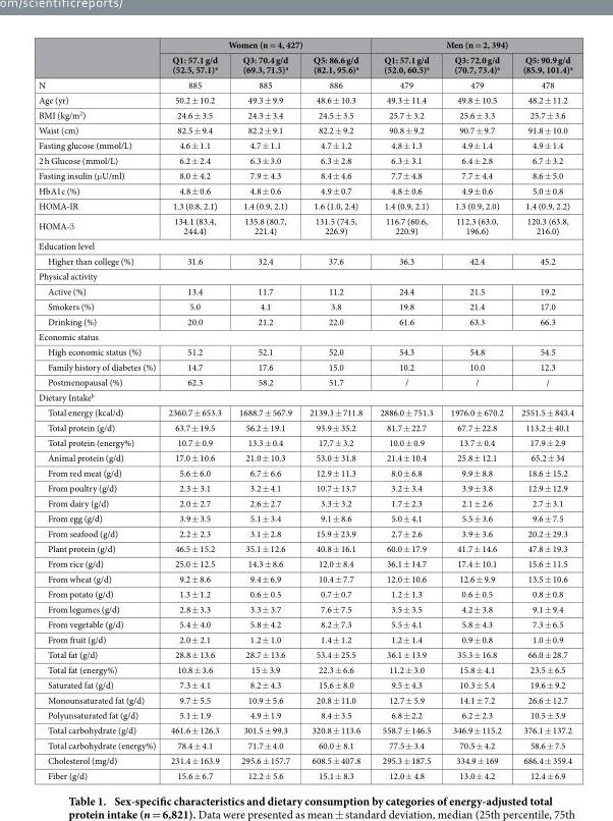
<table><thead><tr><td rowspan="2"></td><td colspan="3">Women (n = 4, 427)</td><td colspan="3">Men (n = 2, 394)</td></tr><tr><td>Q1: 57.1 g/d (52.5, 57.1)<sup>a</sup></td><td>Q3: 70.4 g/d (69.3, 71.5)<sup>a</sup></td><td>Q5: 86.6 g/d (82.1, 95.6)<sup>a</sup></td><td>Q1: 57.1 g/d (52.0, 60.5)<sup>a</sup></td><td>Q3: 72.0 g/d (70.7, 73.4)<sup>a</sup></td><td>Q5: 90.9 g/d (85.9, 101.4)<sup>a</sup></td></tr></thead><tbody><tr><td>N</td><td>885</td><td>885</td><td>886</td><td>479</td><td>479</td><td>478</td></tr><tr><td>Age (yr)</td><td>50.2 ± 10.2</td><td>49.3 ± 9.9</td><td>48.6 ± 10.3</td><td>49.3 ± 11.4</td><td>49.8 ± 10.5</td><td>48.2 ± 11.2</td></tr><tr><td>BMI (kg/m<sup>2</sup>)</td><td>24.6 ± 3.5</td><td>24.3 ± 3.4</td><td>24.5 ± 3.5</td><td>25.7 ± 3.2</td><td>25.6 ± 3.3</td><td>25.7 ± 3.6</td></tr><tr><td>Waist (cm)</td><td>82.5 ± 9.4</td><td>82.2 ± 9.1</td><td>82.2 ± 9.2</td><td>90.8 ± 9.2</td><td>90.7 ± 9.7</td><td>91.8 ± 10.0</td></tr><tr><td>Fasting glucose (mmol/L)</td><td>4.6 ± 1.1</td><td>4.7 ± 1.1</td><td>4.7 ± 1.2</td><td>4.8 ± 1.3</td><td>4.9 ± 1.4</td><td>4.9 ± 1.4</td></tr><tr><td>2 h Glucose (mmol/L)</td><td>6.2 ± 2.4</td><td>6.3 ± 3.0</td><td>6.3 ± 2.8</td><td>6.3 ± 3.1</td><td>6.4 ± 2.8</td><td>6.7 ± 3.2</td></tr><tr><td>Fasting insulin (μ U/ml)</td><td>8.0 ± 4.2</td><td>7.9 ± 4.3</td><td>8.4 ± 4.6</td><td>7.7 ± 4.8</td><td>7.7 ± 4.4</td><td>8.6 ± 5.0</td></tr><tr><td>HbA1c (%)</td><td>4.8 ± 0.6</td><td>4.8 ± 0.6</td><td>4.9 ± 0.7</td><td>4.8 ± 0.6</td><td>4.9 ± 0.6</td><td>5.0 ± 0.8</td></tr><tr><td>HOMA-IR</td><td>1.3 (0.8, 2.1)</td><td>1.4 (0.9, 2.1)</td><td>1.6 (1.0, 2.4)</td><td>1.4 (0.9, 2.1)</td><td>1.3 (0.9, 2.0)</td><td>1.4 (0.9, 2.2)</td></tr><tr><td>HOMA-β</td><td>134.1 (83.4, 244.4)</td><td>135.8 (80.7, 221.4)</td><td>131.5 (74.5, 226.9)</td><td>116.7 (60.6, 220.9)</td><td>112.3 (63.0, 196.6)</td><td>120.3 (63.8, 216.0)</td></tr><tr><td colspan="7">Education level</td></tr><tr><td>Higher than college (%)</td><td>31.6</td><td>32.4</td><td>37.6</td><td>36.3</td><td>42.4</td><td>45.2</td></tr><tr><td colspan="7">Physical activity</td></tr><tr><td>Active (%)</td><td>13.4</td><td>11.7</td><td>11.2</td><td>24.4</td><td>21.5</td><td>19.2</td></tr><tr><td>Smokers (%)</td><td>5.0</td><td>4.1</td><td>3.8</td><td>19.8</td><td>21.4</td><td>17.0</td></tr><tr><td>Drinking (%)</td><td>20.0</td><td>21.2</td><td>22.0</td><td>61.6</td><td>63.3</td><td>66.3</td></tr><tr><td colspan="7">Economic status</td></tr><tr><td>High economic status (%)</td><td>51.2</td><td>52.1</td><td>52.0</td><td>54.3</td><td>54.8</td><td>54.5</td></tr><tr><td>Family history of diabetes (%)</td><td>14.7</td><td>17.6</td><td>15.0</td><td>10.2</td><td>10.0</td><td>12.3</td></tr><tr><td>Postmenopausal (%)</td><td>62.3</td><td>58.2</td><td>51.7</td><td>/</td><td>/</td><td>/</td></tr><tr><td colspan="7">Dietary Intake<sup>b</sup></td></tr><tr><td>Total energy (kcal/d)</td><td>2360.7 ± 653.3</td><td>1688.7 ± 567.9</td><td>2139.3 ± 711.8</td><td>2886.0 ± 751.3</td><td>1976.0 ± 670.2</td><td>2551.5 ± 843.4</td></tr><tr><td>Total protein (g/d)</td><td>63.7 ± 19.5</td><td>56.2 ± 19.1</td><td>93.9 ± 35.2</td><td>81.7 ± 22.7</td><td>67.7 ± 22.8</td><td>113.2 ± 40.1</td></tr><tr><td>Total protein (energy%)</td><td>10.7 ± 0.9</td><td>13.3 ± 0.4</td><td>17.7 ± 3.2</td><td>10.0 ± 0.9</td><td>13.7 ± 0.4</td><td>17.9 ± 2.9</td></tr><tr><td>Animal protein (g/d)</td><td>17.0 ± 10.6</td><td>21.0 ± 10.3</td><td>53.0 ± 31.8</td><td>21.4 ± 10.4</td><td>25.8 ± 12.1</td><td>65.2 ± 34</td></tr><tr><td>From red meat (g/d)</td><td>5.6 ± 6.0</td><td>6.7 ± 6.6</td><td>12.9 ± 11.3</td><td>8.0 ± 6.8</td><td>9.9 ± 8.8</td><td>18.6 ± 15.2</td></tr><tr><td>From poultry (g/d)</td><td>2.3 ± 3.1</td><td>3.2 ± 4.1</td><td>10.7 ± 13.7</td><td>3.2 ± 3.4</td><td>3.9 ± 3.8</td><td>12.9 ± 12.9</td></tr><tr><td>From dairy (g/d)</td><td>2.0 ± 2.7</td><td>2.6 ± 2.7</td><td>3.3 ± 3.2</td><td>1.7 ± 2.3</td><td>2.1 ± 2.6</td><td>2.7 ± 3.1</td></tr><tr><td>From egg (g/d)</td><td>3.9 ± 3.5</td><td>5.1 ± 3.4</td><td>9.1 ± 8.6</td><td>5.0 ± 4.1</td><td>5.5 ± 3.6</td><td>9.6 ± 7.5</td></tr><tr><td>From seafood (g/d)</td><td>2.2 ± 2.3</td><td>3.1 ± 2.8</td><td>15.9 ± 23.9</td><td>2.7 ± 2.6</td><td>3.9 ± 3.6</td><td>20.2 ± 29.3</td></tr><tr><td>Plant protein (g/d)</td><td>46.5 ± 15.2</td><td>35.1 ± 12.6</td><td>40.8 ± 16.1</td><td>60.0 ± 17.9</td><td>41.7 ± 14.6</td><td>47.8 ± 19.3</td></tr><tr><td>From rice (g/d)</td><td>25.0 ± 12.5</td><td>14.3 ± 8.6</td><td>12.0 ± 8.4</td><td>36.1 ± 14.7</td><td>17.4 ± 10.1</td><td>15.6 ± 11.5</td></tr><tr><td>From wheat (g/d)</td><td>9.2 ± 8.6</td><td>9.4 ± 6.9</td><td>10.4 ± 7.7</td><td>12.0 ± 10.6</td><td>12.6 ± 9.9</td><td>13.5 ± 10.6</td></tr><tr><td>From potato (g/d)</td><td>1.3 ± 1.2</td><td>0.6 ± 0.5</td><td>0.7 ± 0.7</td><td>1.2 ± 1.3</td><td>0.6 ± 0.5</td><td>0.8 ± 0.8</td></tr><tr><td>From legumes (g/d)</td><td>2.8 ± 3.3</td><td>3.3 ± 3.7</td><td>7.6 ± 7.5</td><td>3.5 ± 3.5</td><td>4.2 ± 3.8</td><td>9.1 ± 9.4</td></tr><tr><td>From vegetable (g/d)</td><td>5.4 ± 4.0</td><td>5.8 ± 4.2</td><td>8.2 ± 7.3</td><td>5.5 ± 4.1</td><td>5.8 ± 4.3</td><td>7.3 ± 6.5</td></tr><tr><td>From fruit (g/d)</td><td>2.0 ± 2.1</td><td>1.2 ± 1.0</td><td>1.4 ± 1.2</td><td>1.2 ± 1.4</td><td>0.9 ± 0.8</td><td>1.0 ± 0.9</td></tr><tr><td>Total fat (g/d)</td><td>28.8 ± 13.6</td><td>28.7 ± 13.6</td><td>53.4 ± 25.5</td><td>36.1 ± 13.9</td><td>35.3 ± 16.8</td><td>66.0 ± 28.7</td></tr><tr><td>Total fat (energy%)</td><td>10.8 ± 3.6</td><td>15 ± 3.9</td><td>22.3 ± 6.6</td><td>11.2 ± 3.0</td><td>15.8 ± 4.1</td><td>23.5 ± 6.5</td></tr><tr><td>Saturated fat (g/d)</td><td>7.3 ± 4.1</td><td>8.2 ± 4.3</td><td>15.6 ± 8.0</td><td>9.5 ± 4.3</td><td>10.3 ± 5.4</td><td>19.6 ± 9.2</td></tr><tr><td>Monounsaturated fat (g/d)</td><td>9.7 ± 5.5</td><td>10.9 ± 5.6</td><td>20.8 ± 11.0</td><td>12.7 ± 5.9</td><td>14.1 ± 7.2</td><td>26.6 ± 12.7</td></tr><tr><td>Polyunsaturated fat (g/d)</td><td>5.1 ± 1.9</td><td>4.9 ± 1.9</td><td>8.4 ± 3.5</td><td>6.8 ± 2.2</td><td>6.2 ± 2.3</td><td>10.5 ± 3.9</td></tr><tr><td>Total carbohydrate (g/d)</td><td>461.6 ± 126.3</td><td>301.5 ± 99.3</td><td>320.8 ± 113.6</td><td>558.7 ± 146.5</td><td>346.9 ± 115.2</td><td>376.1 ± 137.2</td></tr><tr><td>Total carbohydrate (energy%)</td><td>78.4 ± 4.1</td><td>71.7 ± 4.0</td><td>60.0 ± 8.1</td><td>77.5 ± 3.4</td><td>70.5 ± 4.2</td><td>58.6 ± 7.5</td></tr><tr><td>Cholesterol (mg/d)</td><td>231.4 ± 163.9</td><td>295.6 ± 157.7</td><td>608.5 ± 407.8</td><td>295.3 ± 187.5</td><td>334.9 ± 169</td><td>686.4 ± 359.4</td></tr><tr><td>Fiber (g/d)</td><td>15.6 ± 6.7</td><td>12.2 ± 5.6</td><td>15.1 ± 8.3</td><td>12.0 ± 4.8</td><td>13.0 ± 4.2</td><td>12.4 ± 6.9</td></tr></tbody></table>